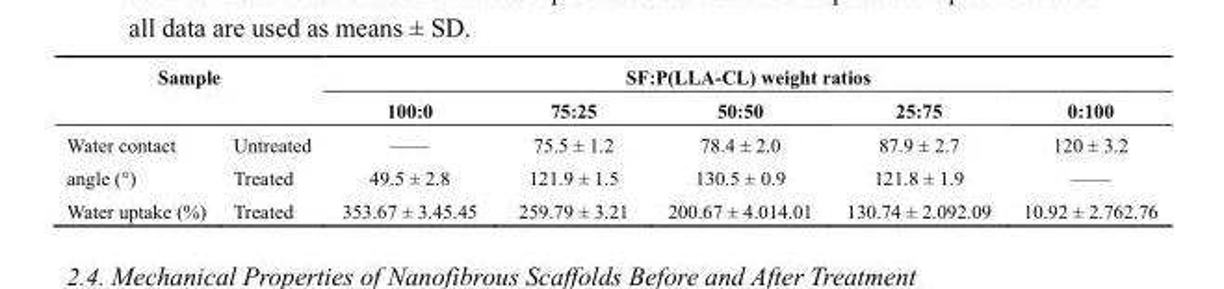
<table><thead><tr><td colspan="2">Sample</td><td colspan="5">SF:P(LLA-CL) weight ratios</td></tr><tr><td></td><td></td><td>100:0</td><td>75:25</td><td>50:50</td><td>25:75</td><td>0:100</td></tr></thead><tbody><tr><td>Water contact</td><td>Untreated</td><td>——</td><td>75.5 ± 1.2</td><td>78.4 ± 2.0</td><td>87.9 ± 2.7</td><td>120 ± 3.2</td></tr><tr><td>angle (°)</td><td>Treated</td><td>49.5 ± 2.8</td><td>121.9 ± 1.5</td><td>130.5 ± 0.9</td><td>121.8 ± 1.9</td><td>——</td></tr><tr><td>Water uptake (%)</td><td>Treated</td><td>353.67 ± 3.45.45</td><td>259.79 ± 3.21</td><td>200.67 ± 4.014.01</td><td>130.74 ± 2.092.09</td><td>10.92 ± 2.762.76</td></tr></tbody></table>